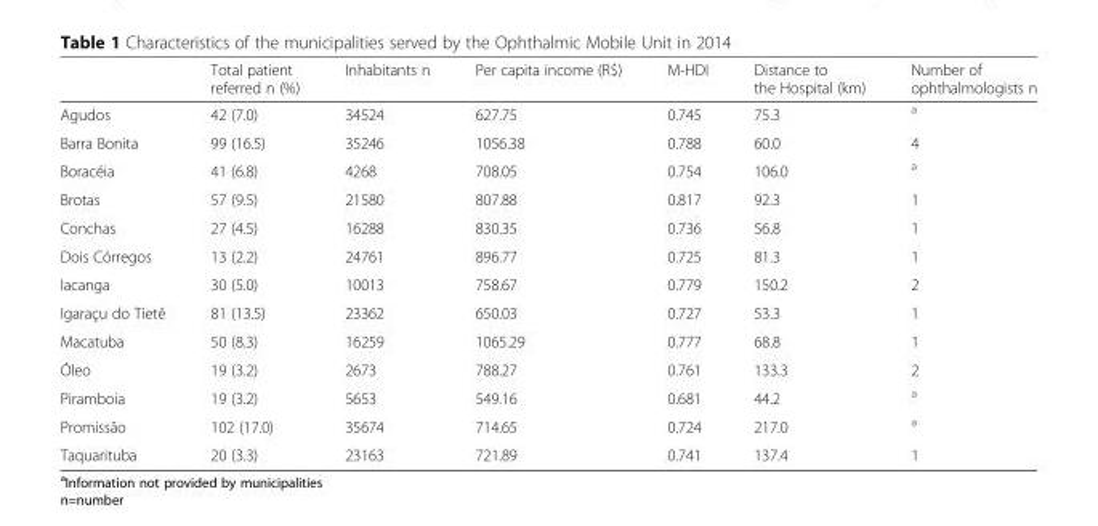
<table><thead><tr><td></td><td>Total patient referred n (%)</td><td>Inhabitants n</td><td>Per capita income (R$)</td><td>M-HDI</td><td>Distance to the Hospital (km)</td><td>Number of ophthalmologists n</td></tr></thead><tbody><tr><td>Agudos</td><td>42 (7.0)</td><td>34524</td><td>627.75</td><td>0.745</td><td>75.3</td><td><sup>a</sup></td></tr><tr><td>Barra Bonita</td><td>99 (16.5)</td><td>35246</td><td>1056.38</td><td>0.788</td><td>60.0</td><td>4</td></tr><tr><td>Boracéia</td><td>41 (6.8)</td><td>4268</td><td>708.05</td><td>0.754</td><td>106.0</td><td><sup>a</sup></td></tr><tr><td>Brotas</td><td>57 (9.5)</td><td>21580</td><td>807.88</td><td>0.817</td><td>92.3</td><td>1</td></tr><tr><td>Conchas</td><td>27 (4.5)</td><td>16288</td><td>830.35</td><td>0.736</td><td>56.8</td><td>1</td></tr><tr><td>Dois Córregos</td><td>13 (2.2)</td><td>24761</td><td>896.77</td><td>0.725</td><td>81.3</td><td>1</td></tr><tr><td>Iacanga</td><td>30 (5.0)</td><td>10013</td><td>758.67</td><td>0.779</td><td>150.2</td><td>2</td></tr><tr><td>Igaraçu do Tietê</td><td>81 (13.5)</td><td>23362</td><td>650.03</td><td>0.727</td><td>53.3</td><td>1</td></tr><tr><td>Macatuba</td><td>50 (8.3)</td><td>16259</td><td>1065.29</td><td>0.777</td><td>68.8</td><td>1</td></tr><tr><td>Óleo</td><td>19 (3.2)</td><td>2673</td><td>788.27</td><td>0.761</td><td>133.3</td><td>2</td></tr><tr><td>Piramboia</td><td>19 (3.2)</td><td>5653</td><td>549.16</td><td>0.681</td><td>44.2</td><td><sup>a</sup></td></tr><tr><td>Promissão</td><td>102 (17.0)</td><td>35674</td><td>714.65</td><td>0.724</td><td>217.0</td><td><sup>a</sup></td></tr><tr><td>Taquarituba</td><td>20 (3.3)</td><td>23163</td><td>721.89</td><td>0.741</td><td>137.4</td><td>1</td></tr></tbody></table>